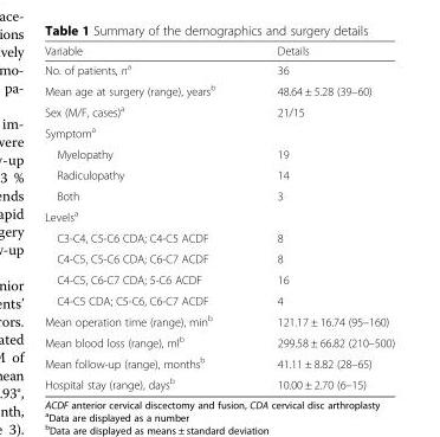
<table><thead><tr><td>Variable</td><td>Details</td></tr></thead><tbody><tr><td>No. of patients, n<sup>a</sup></td><td>36</td></tr><tr><td>Mean age at surgery (range), years<sup>b</sup></td><td>48.64 ± 5.28 (39–60)</td></tr><tr><td>Sex (M/F, cases)<sup>a</sup></td><td>21/15</td></tr><tr><td colspan="2">Symptom<sup>a</sup></td></tr><tr><td>Myelopathy</td><td>19</td></tr><tr><td>Radiculopathy</td><td>14</td></tr><tr><td>Both</td><td>3</td></tr><tr><td colspan="2">Levels<sup>a</sup></td></tr><tr><td>C3-C4, C5-C6 CDA; C4-C5 ACDF</td><td>8</td></tr><tr><td>C4-C5, C5-C6 CDA; C6-C7 ACDF</td><td>8</td></tr><tr><td>C4-C5, C6-C7 CDA; 5-C6 ACDF</td><td>16</td></tr><tr><td>C4-C5 CDA; C5-C6, C6-C7 ACDF</td><td>4</td></tr><tr><td>Mean operation time (range), min<sup>b</sup></td><td>121.17 ± 16.74 (95–160)</td></tr><tr><td>Mean blood loss (range), ml<sup>b</sup></td><td>299.58 ± 66.82 (210–500)</td></tr><tr><td>Mean follow-up (range), months<sup>b</sup></td><td>41.11 ± 8.82 (28–65)</td></tr><tr><td>Hospital stay (range), days<sup>b</sup></td><td>10.00 ± 2.70 (6–15)</td></tr></tbody></table>